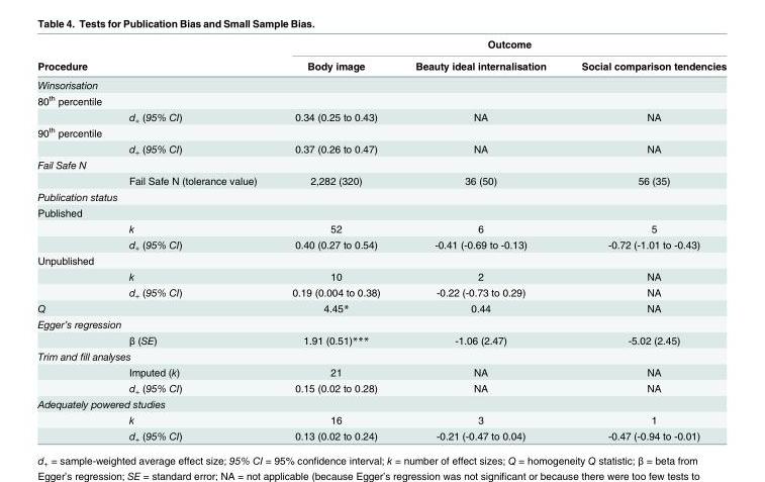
<table><thead><tr><td></td><td></td><td colspan="3">Outcome</td></tr><tr><td colspan="2">Procedure</td><td>Body image</td><td>Beauty ideal internalisation</td><td>Social comparison tendencies</td></tr></thead><tbody><tr><td colspan="5">Winsorisation</td></tr><tr><td colspan="5">80<sup>th</sup> percentile</td></tr><tr><td></td><td>d<sub>+</sub> (95% CI)</td><td>0.34 (0.25 to 0.43)</td><td>NA</td><td>NA</td></tr><tr><td colspan="5">90<sup>th</sup> percentile</td></tr><tr><td></td><td>d<sub>+</sub> (95% CI)</td><td>0.37 (0.26 to 0.47)</td><td>NA</td><td>NA</td></tr><tr><td colspan="5">Fail Safe N</td></tr><tr><td></td><td>Fail Safe N (tolerance value)</td><td>2,282 (320)</td><td>36 (50)</td><td>56 (35)</td></tr><tr><td colspan="5">Publication status</td></tr><tr><td colspan="5">Published</td></tr><tr><td></td><td>k</td><td>52</td><td>6</td><td>5</td></tr><tr><td></td><td>d<sub>+</sub> (95% CI)</td><td>0.40 (0.27 to 0.54)</td><td>-0.41 (-0.69 to -0.13)</td><td>-0.72 (-1.01 to -0.43)</td></tr><tr><td colspan="5">Unpublished</td></tr><tr><td></td><td>k</td><td>10</td><td>2</td><td>NA</td></tr><tr><td></td><td>d<sub>+</sub> (95% CI)</td><td>0.19 (0.004 to 0.38)</td><td>-0.22 (-0.73 to 0.29)</td><td>NA</td></tr><tr><td>Q</td><td></td><td>4.45*</td><td>0.44</td><td>NA</td></tr><tr><td colspan="5">Egger’s regression</td></tr><tr><td></td><td>β (SE)</td><td>1.91 (0.51)***</td><td>-1.06 (2.47)</td><td>-5.02 (2.45)</td></tr><tr><td colspan="5">Trim and fill analyses</td></tr><tr><td></td><td>Imputed (k)</td><td>21</td><td>NA</td><td>NA</td></tr><tr><td></td><td>d<sub>+</sub> (95% CI)</td><td>0.15 (0.02 to 0.28)</td><td>NA</td><td>NA</td></tr><tr><td colspan="5">Adequately powered studies</td></tr><tr><td></td><td>k</td><td>16</td><td>3</td><td>1</td></tr><tr><td></td><td>d<sub>+</sub> (95% CI)</td><td>0.13 (0.02 to 0.24)</td><td>-0.21 (-0.47 to 0.04)</td><td>-0.47 (-0.94 to -0.01)</td></tr></tbody></table>